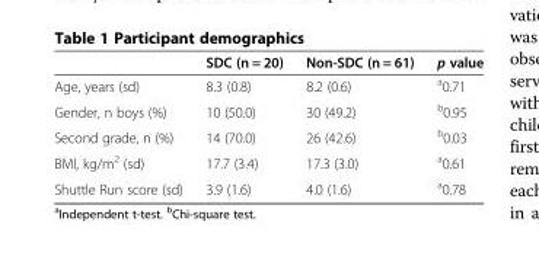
<table><thead><tr><td></td><td>SDC (n = 20)</td><td>Non-SDC (n = 61)</td><td>p value</td></tr></thead><tbody><tr><td>Age, years (sd)</td><td>8.3 (0.8)</td><td>8.2 (0.6)</td><td><sup>a</sup>0.71</td></tr><tr><td>Gender, n boys (%)</td><td>10 (50.0)</td><td>30 (49.2)</td><td><sup>b</sup>0.95</td></tr><tr><td>Second grade, n (%)</td><td>14 (70.0)</td><td>26 (42.6)</td><td><sup>b</sup>0.03</td></tr><tr><td>BMI, kg/m<sup>2</sup> (sd)</td><td>17.7 (3.4)</td><td>17.3 (3.0)</td><td><sup>a</sup>0.61</td></tr><tr><td>Shuttle Run score (sd)</td><td>3.9 (1.6)</td><td>4.0 (1.6)</td><td><sup>a</sup>0.78</td></tr></tbody></table>